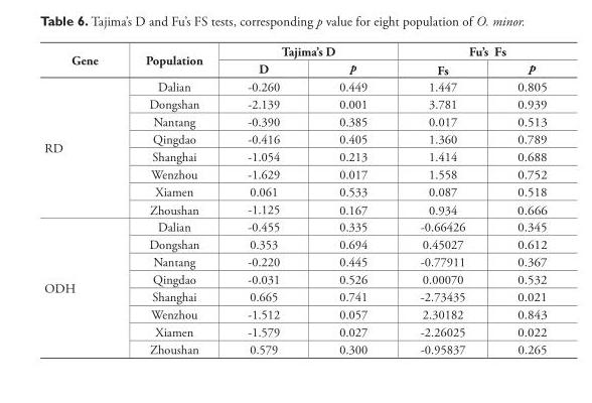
<table><thead><tr><td rowspan="2">Gene</td><td rowspan="2">Population</td><td colspan="2">Tajima’s D</td><td colspan="2">Fu’s Fs</td></tr><tr><td>D</td><td>p</td><td>Fs</td><td>p</td></tr></thead><tbody><tr><td rowspan="8">RD</td><td>Dalian</td><td>-0.260</td><td>0.449</td><td>1.447</td><td>0.805</td></tr><tr><td>Dongshan</td><td>-2.139</td><td>0.001</td><td>3.781</td><td>0.939</td></tr><tr><td>Nantang</td><td>-0.390</td><td>0.385</td><td>0.017</td><td>0.513</td></tr><tr><td>Qingdao</td><td>-0.416</td><td>0.405</td><td>1.360</td><td>0.789</td></tr><tr><td>Shanghai</td><td>-1.054</td><td>0.213</td><td>1.414</td><td>0.688</td></tr><tr><td>Wenzhou</td><td>-1.629</td><td>0.017</td><td>1.558</td><td>0.752</td></tr><tr><td>Xiamen</td><td>0.061</td><td>0.533</td><td>0.087</td><td>0.518</td></tr><tr><td>Zhoushan</td><td>-1.125</td><td>0.167</td><td>0.934</td><td>0.666</td></tr><tr><td rowspan="8">ODH</td><td>Dalian</td><td>-0.455</td><td>0.335</td><td>-0.66426</td><td>0.345</td></tr><tr><td>Dongshan</td><td>0.353</td><td>0.694</td><td>0.45027</td><td>0.612</td></tr><tr><td>Nantang</td><td>-0.220</td><td>0.445</td><td>-0.77911</td><td>0.367</td></tr><tr><td>Qingdao</td><td>-0.031</td><td>0.526</td><td>0.00070</td><td>0.532</td></tr><tr><td>Shanghai</td><td>0.665</td><td>0.741</td><td>-2.73435</td><td>0.021</td></tr><tr><td>Wenzhou</td><td>-1.512</td><td>0.057</td><td>2.30182</td><td>0.843</td></tr><tr><td>Xiamen</td><td>-1.579</td><td>0.027</td><td>-2.26025</td><td>0.022</td></tr><tr><td>Zhoushan</td><td>0.579</td><td>0.300</td><td>-0.95837</td><td>0.265</td></tr></tbody></table>